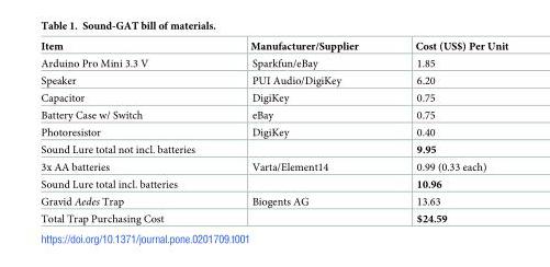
<table><thead><tr><td>Item</td><td>Manufacturer/Supplier</td><td>Cost (US$) Per Unit</td></tr></thead><tbody><tr><td>Arduino Pro Mini 3.3 V</td><td>Sparkfun/eBay</td><td>1.85</td></tr><tr><td>Speaker</td><td>PUI Audio/DigiKey</td><td>6.20</td></tr><tr><td>Capacitor</td><td>DigiKey</td><td>0.75</td></tr><tr><td>Battery Case w/ Switch</td><td>eBay</td><td>0.75</td></tr><tr><td>Photoresistor</td><td>DigiKey</td><td>0.40</td></tr><tr><td>Sound Lure total not incl. batteries</td><td></td><td>9.95</td></tr><tr><td>3x AA batteries</td><td>Varta/Element14</td><td>0.99 (0.33 each)</td></tr><tr><td>Sound Lure total incl. batteries</td><td></td><td>10.96</td></tr><tr><td>Gravid Aedes Trap</td><td>Biogents AG</td><td>13.63</td></tr><tr><td>Total Trap Purchasing Cost</td><td></td><td>$24.59</td></tr></tbody></table>